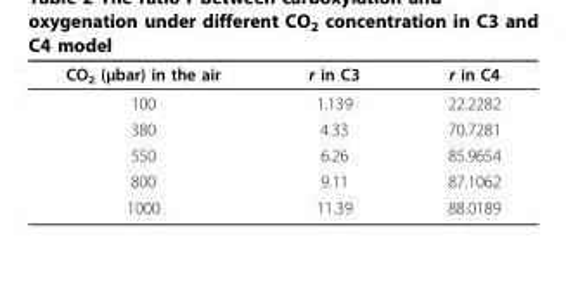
<table><thead><tr><td>CO<sub>2</sub> (μbar) in the air</td><td>r in C3</td><td>r in C4</td></tr></thead><tbody><tr><td>100</td><td>1.139</td><td>22.2282</td></tr><tr><td>380</td><td>4.33</td><td>70.7281</td></tr><tr><td>550</td><td>6.26</td><td>85.9654</td></tr><tr><td>800</td><td>9.11</td><td>87.1062</td></tr><tr><td>1000</td><td>11.39</td><td>88.0189</td></tr></tbody></table>